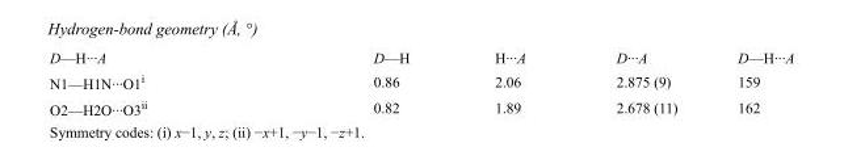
<table><tbody><tr><td>D—H···A</td><td>D—H</td><td>H···A</td><td>D···A</td><td>D—H···A</td></tr><tr><td>N1—H1N···O1<sup>i</sup></td><td>0.86</td><td>2.06</td><td>2.875 (9)</td><td>159</td></tr><tr><td>O2—H2O···O3<sup>ii</sup></td><td>0.82</td><td>1.89</td><td>2.678 (11)</td><td>162</td></tr></tbody></table>